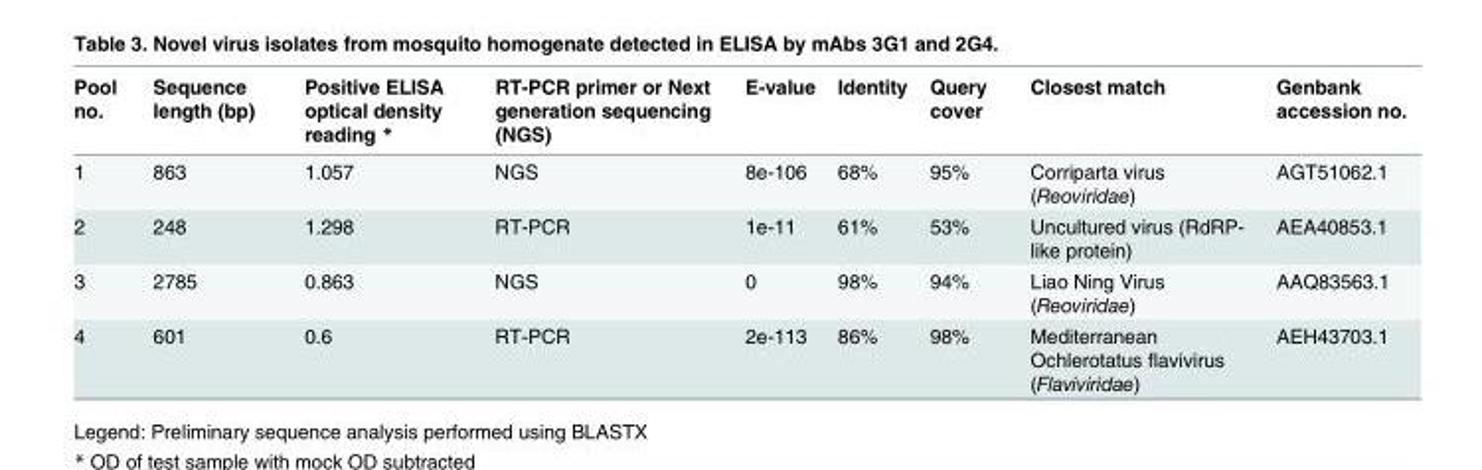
<table><thead><tr><td>Pool no.</td><td>Sequence length (bp)</td><td>Positive ELISA optical density reading *</td><td>RT-PCR primer or Next generation sequencing (NGS)</td><td>E-value</td><td>Identity</td><td>Query cover</td><td>Closest match</td><td>Genbank accession no.</td></tr></thead><tbody><tr><td>1</td><td>863</td><td>1.057</td><td>NGS</td><td>8e-106</td><td>68%</td><td>95%</td><td>Corriparta virus (Reoviridae)</td><td>AGT51062.1</td></tr><tr><td>2</td><td>248</td><td>1.298</td><td>RT-PCR</td><td>1e-11</td><td>61%</td><td>53%</td><td>Uncultured virus (RdRP- like protein)</td><td>AEA40853.1</td></tr><tr><td>3</td><td>2785</td><td>0.863</td><td>NGS</td><td>0</td><td>98%</td><td>94%</td><td>Liao Ning Virus (Reoviridae)</td><td>AAQ83563.1</td></tr><tr><td>4</td><td>601</td><td>0.6</td><td>RT-PCR</td><td>2e-113</td><td>86%</td><td>98%</td><td>Mediterranean Ochlerotatus flavivirus (Flaviviridae)</td><td>AEH43703.1</td></tr></tbody></table>